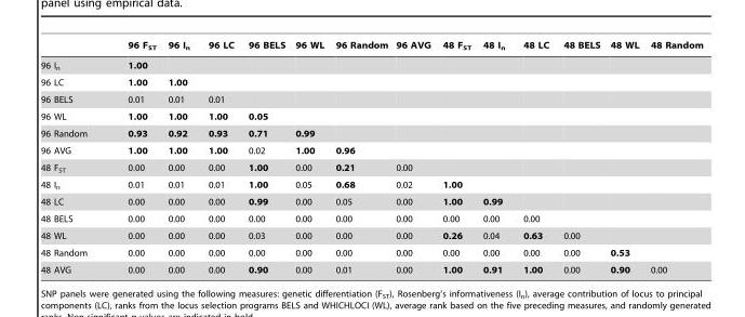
<table><thead><tr><td></td><td>96 F<sub>ST</sub></td><td>96 I<sub>n</sub></td><td>96 LC</td><td>96 BELS</td><td>96 WL</td><td>96 Random</td><td>96 AVG</td><td>48 F<sub>ST</sub></td><td>48 I<sub>n</sub></td><td>48 LC</td><td>48 BELS</td><td>48 WL</td><td>48 Random</td></tr></thead><tbody><tr><td>96 I<sub>n</sub></td><td>1.00</td><td></td><td></td><td></td><td></td><td></td><td></td><td></td><td></td><td></td><td></td><td></td><td></td></tr><tr><td>96 LC</td><td>1.00</td><td>1.00</td><td></td><td></td><td></td><td></td><td></td><td></td><td></td><td></td><td></td><td></td><td></td></tr><tr><td>96 BELS</td><td>0.01</td><td>0.01</td><td>0.01</td><td></td><td></td><td></td><td></td><td></td><td></td><td></td><td></td><td></td><td></td></tr><tr><td>96 WL</td><td>1.00</td><td>1.00</td><td>1.00</td><td>0.05</td><td></td><td></td><td></td><td></td><td></td><td></td><td></td><td></td><td></td></tr><tr><td>96 Random</td><td>0.93</td><td>0.92</td><td>0.93</td><td>0.71</td><td>0.99</td><td></td><td></td><td></td><td></td><td></td><td></td><td></td><td></td></tr><tr><td>96 AVG</td><td>1.00</td><td>1.00</td><td>1.00</td><td>0.02</td><td>1.00</td><td>0.96</td><td></td><td></td><td></td><td></td><td></td><td></td><td></td></tr><tr><td>48 F<sub>ST</sub></td><td>0.00</td><td>0.00</td><td>0.00</td><td>1.00</td><td>0.00</td><td>0.21</td><td>0.00</td><td></td><td></td><td></td><td></td><td></td><td></td></tr><tr><td>48 I<sub>n</sub></td><td>0.01</td><td>0.01</td><td>0.01</td><td>1.00</td><td>0.05</td><td>0.68</td><td>0.02</td><td>1.00</td><td></td><td></td><td></td><td></td><td></td></tr><tr><td>48 LC</td><td>0.00</td><td>0.00</td><td>0.00</td><td>0.99</td><td>0.00</td><td>0.05</td><td>0.00</td><td>1.00</td><td>0.99</td><td></td><td></td><td></td><td></td></tr><tr><td>48 BELS</td><td>0.00</td><td>0.00</td><td>0.00</td><td>0.00</td><td>0.00</td><td>0.00</td><td>0.00</td><td>0.00</td><td>0.00</td><td>0.00</td><td></td><td></td><td></td></tr><tr><td>48 WL</td><td>0.00</td><td>0.00</td><td>0.00</td><td>0.03</td><td>0.00</td><td>0.00</td><td>0.00</td><td>0.26</td><td>0.04</td><td>0.63</td><td>0.00</td><td></td><td></td></tr><tr><td>48 Random</td><td>0.00</td><td>0.00</td><td>0.00</td><td>0.00</td><td>0.00</td><td>0.00</td><td>0.00</td><td>0.00</td><td>0.00</td><td>0.00</td><td>0.00</td><td>0.53</td><td></td></tr><tr><td>48 AVG</td><td>0.00</td><td>0.00</td><td>0.00</td><td>0.90</td><td>0.00</td><td>0.01</td><td>0.00</td><td>1.00</td><td>0.91</td><td>1.00</td><td>0.00</td><td>0.90</td><td>0.00</td></tr></tbody></table>